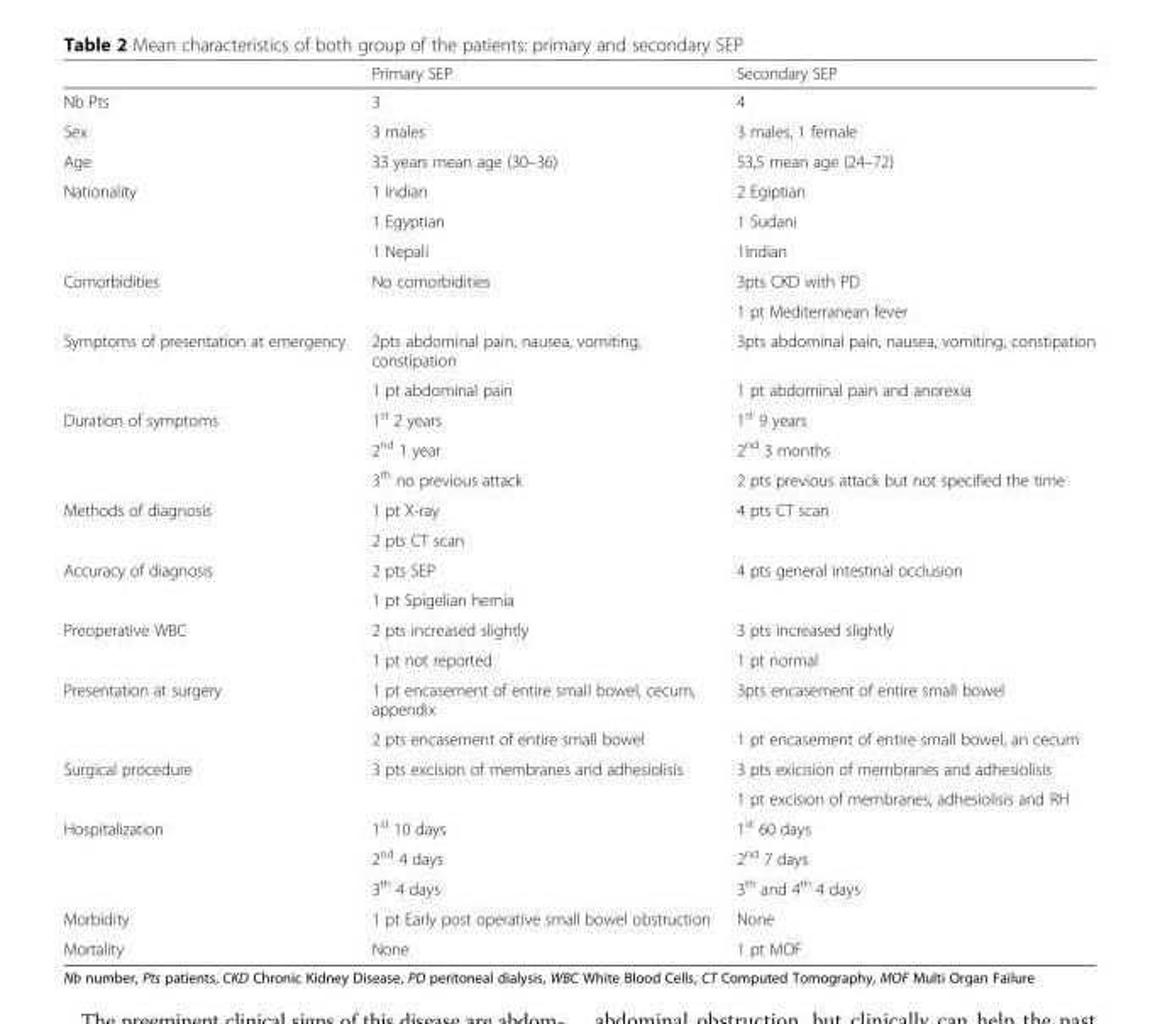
<table><thead><tr><td></td><td>Primary SEP</td><td>Secondary SEP</td></tr></thead><tbody><tr><td>Nb Pts</td><td>3</td><td>4</td></tr><tr><td>Sex</td><td>3 males</td><td>3 males, 1 female</td></tr><tr><td>Age</td><td>33 years mean age (30–36)</td><td>53,5 mean age (24–72)</td></tr><tr><td rowspan="3">Nationality</td><td>1 Indian</td><td>2 Egiptian</td></tr><tr><td>1 Egyptian</td><td>1 Sudani</td></tr><tr><td>1 Nepali</td><td>1Indian</td></tr><tr><td rowspan="2">Comorbidities</td><td rowspan="2">No comorbidities</td><td>3pts CKD with PD</td></tr><tr><td>1 pt Mediterranean fever</td></tr><tr><td rowspan="2">Symptoms of presentation at emergency</td><td>2pts abdominal pain, nausea, vomiting, constipation</td><td>3pts abdominal pain, nausea, vomiting, constipation</td></tr><tr><td>1 pt abdominal pain</td><td>1 pt abdominal pain and anorexia</td></tr><tr><td rowspan="3">Duration of symptoms</td><td>1<sup>st</sup> 2 years</td><td>1<sup>st</sup> 9 years</td></tr><tr><td>2<sup>nd</sup> 1 year</td><td>2<sup>nd</sup> 3 months</td></tr><tr><td>3<sup>th</sup> no previous attack</td><td>2 pts previous attack but not specified the time</td></tr><tr><td rowspan="2">Methods of diagnosis</td><td>1 pt X-ray</td><td rowspan="2">4 pts CT scan</td></tr><tr><td>2 pts CT scan</td></tr><tr><td rowspan="2">Accuracy of diagnosis</td><td>2 pts SEP</td><td rowspan="2">4 pts general intestinal occlusion</td></tr><tr><td>1 pt Spigelian hernia</td></tr><tr><td rowspan="2">Preoperative WBC</td><td>2 pts increased slightly</td><td>3 pts increased slightly</td></tr><tr><td>1 pt not reported</td><td>1 pt normal</td></tr><tr><td rowspan="2">Presentation at surgery</td><td>1 pt encasement of entire small bowel, cecum, appendix</td><td>3pts encasement of entire small bowel</td></tr><tr><td>2 pts encasement of entire small bowel</td><td>1 pt encasement of entire small bowel, an cecum</td></tr><tr><td rowspan="2">Surgical procedure</td><td rowspan="2">3 pts excision of membranes and adhesiolisis</td><td>3 pts exicision of membranes and adhesiolisis</td></tr><tr><td>1 pt excision of membranes, adhesiolisis and RH</td></tr><tr><td rowspan="3">Hospitalization</td><td>1<sup>st</sup> 10 days</td><td>1<sup>st</sup> 60 days</td></tr><tr><td>2<sup>nd</sup> 4 days</td><td>2<sup>nd</sup> 7 days</td></tr><tr><td>3<sup>th</sup> 4 days</td><td>3<sup>th</sup> and 4<sup>th</sup> 4 days</td></tr><tr><td>Morbidity</td><td>1 pt Early post operative small bowel obstruction</td><td>None</td></tr><tr><td>Mortality</td><td>None</td><td>1 pt MOF</td></tr></tbody></table>